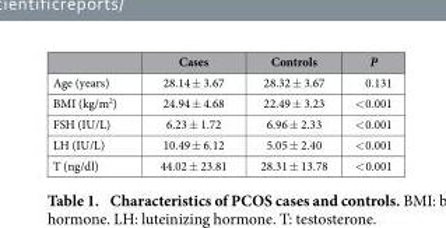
<table><thead><tr><td></td><td>Cases</td><td>Controls</td><td>P</td></tr></thead><tbody><tr><td>Age (years)</td><td>28.14 ± 3.67</td><td>28.32 ± 3.67</td><td>0.131</td></tr><tr><td>BMI (kg/m<sup>2</sup>)</td><td>24.94 ± 4.68</td><td>22.49 ± 3.23</td><td>&lt; 0.001</td></tr><tr><td>FSH (IU/L)</td><td>6.23 ± 1.72</td><td>6.96 ± 2.33</td><td>&lt; 0.001</td></tr><tr><td>LH (IU/L)</td><td>10.49 ± 6.12</td><td>5.05 ± 2.40</td><td>&lt; 0.001</td></tr><tr><td>T (ng/dl)</td><td>44.02 ± 23.81</td><td>28.31 ± 13.78</td><td>&lt; 0.001</td></tr></tbody></table>